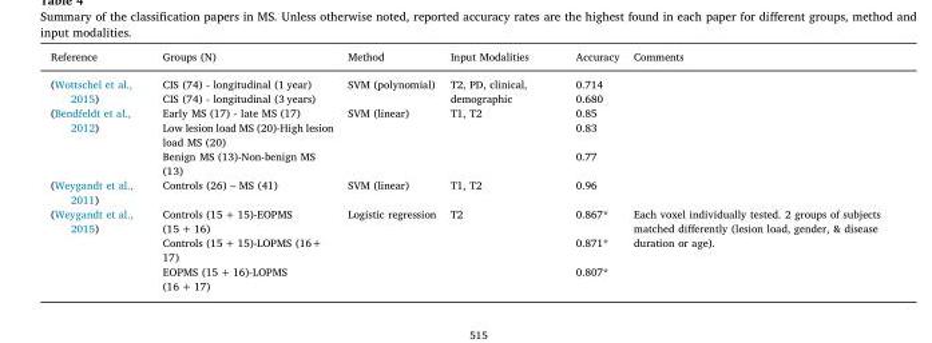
<table><thead><tr><td>Reference</td><td>Groups (N)</td><td>Method</td><td>Input Modalities</td><td>Accuracy</td><td>Comments</td></tr></thead><tbody><tr><td rowspan="2">(Wottschel et al., 2015)</td><td>CIS (74) - longitudinal (1 year)</td><td rowspan="2">SVM (polynomial)</td><td rowspan="2">T2, PD, clinical, demographic</td><td>0.714</td><td rowspan="2"></td></tr><tr><td>CIS (74) - longitudinal (3 years)</td><td>0.680</td></tr><tr><td rowspan="3">(Bendfeldt et al., 2012)</td><td>Early MS (17) - late MS (17)</td><td>SVM (linear)</td><td>T1, T2</td><td>0.85</td><td rowspan="3"></td></tr><tr><td>Low lesion load MS (20)-High lesion load MS (20)</td><td></td><td></td><td>0.83</td></tr><tr><td>Benign MS (13)-Non-benign MS (13)</td><td></td><td></td><td>0.77</td></tr><tr><td>(Weygandt et al., 2011)</td><td>Controls (26) – MS (41)</td><td>SVM (linear)</td><td>T1, T2</td><td>0.96</td><td></td></tr><tr><td rowspan="3">(Weygandt et al., 2015)</td><td>Controls (15 + 15)-EOPMS (15 + 16)</td><td>Logistic regression</td><td>T2</td><td>0.867*</td><td rowspan="3">Each voxel individually tested. 2 groups of subjects matched differently (lesion load, gender, &amp; disease duration or age).</td></tr><tr><td>Controls (15 + 15)-LOPMS (16+ 17)</td><td></td><td></td><td>0.871*</td></tr><tr><td>EOPMS (15 + 16)-LOPMS (16 + 17)</td><td></td><td></td><td>0.807*</td></tr></tbody></table>